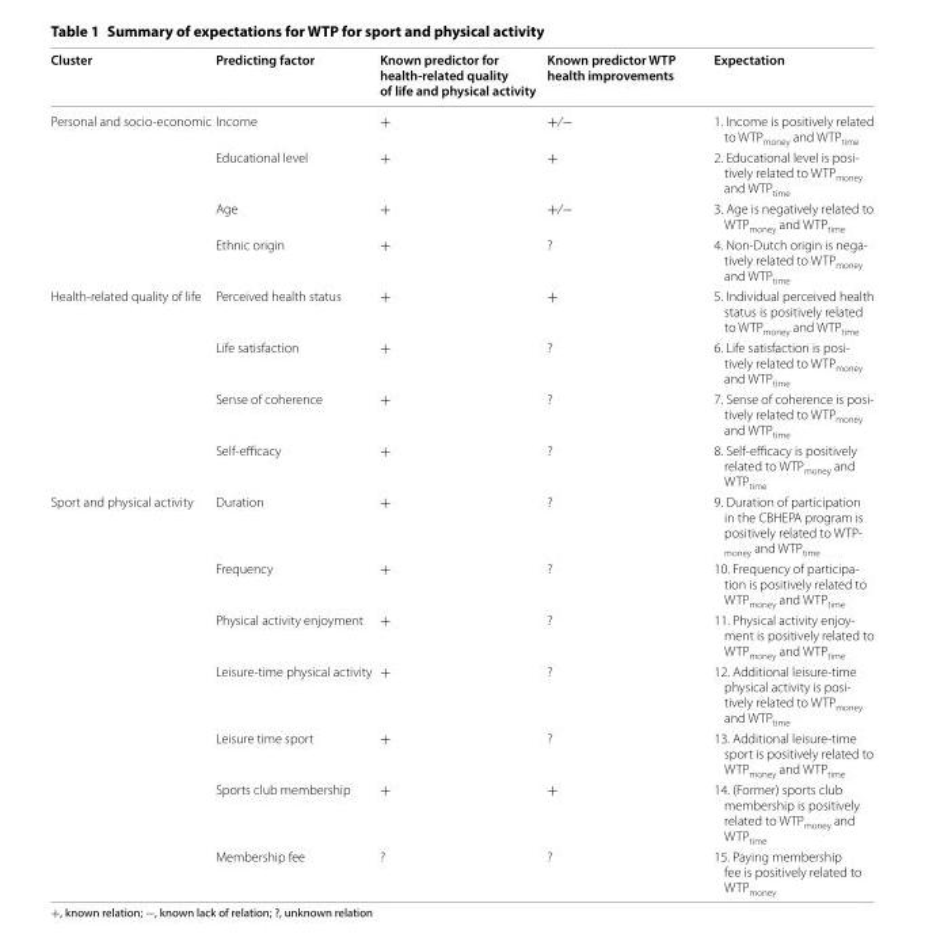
<table><thead><tr><td>Cluster</td><td>Predicting factor</td><td>Known predictor for health-related quality of life and physical activity</td><td>Known predictor WTP health improvements</td><td>Expectation</td></tr></thead><tbody><tr><td rowspan="4">Personal and socio-economic</td><td>Income</td><td>+</td><td>+/−</td><td>1. Income is positively related to WTP<sub>money</sub> and WTP<sub>time</sub></td></tr><tr><td>Educational level</td><td>+</td><td>+</td><td>2. Educational level is posi- tively related to WTPmoney and WTPtime</td></tr><tr><td>Age</td><td>+</td><td>+/−</td><td>3. Age is negatively related to WTP<sub>money</sub> and WTP<sub>time</sub></td></tr><tr><td>Ethnic origin</td><td>+</td><td>?</td><td>4. Non-Dutch origin is nega- tively related to WTPmoney and WTPtime</td></tr><tr><td rowspan="4">Health-related quality of life</td><td>Perceived health status</td><td>+</td><td>+</td><td>5. Individual perceived health status is positively related to WTP<sub>money</sub> and WTP<sub>time</sub></td></tr><tr><td>Life satisfaction</td><td>+</td><td>?</td><td>6. Life satisfaction is posi- tively related to WTPmoney and WTPtime</td></tr><tr><td>Sense of coherence</td><td>+</td><td>?</td><td>7. Sense of coherence is posi- tively related to WTPmoney and WTPtime</td></tr><tr><td>Self-efficacy</td><td>+</td><td>?</td><td>8. Self-efficacy is positively related to WTP<sub>money</sub> and WTP<sub>time</sub></td></tr><tr><td rowspan="7">Sport and physical activity</td><td>Duration</td><td>+</td><td>?</td><td>9. Duration of participation in the CBHEPA program is positively related to WTP- money and WTPtime</td></tr><tr><td>Frequency</td><td>+</td><td>?</td><td>10. Frequency of participa- tion is positively related to WTPmoney and WTPtime</td></tr><tr><td>Physical activity enjoyment</td><td>+</td><td>?</td><td>11. Physical activity enjoy- ment is positively related to WTPmoney and WTPtime</td></tr><tr><td>Leisure-time physical activity</td><td>+</td><td>?</td><td>12. Additional leisure-time physical activity is posi- tively related to WTPmoney and WTPtime</td></tr><tr><td>Leisure time sport</td><td>+</td><td>?</td><td>13. Additional leisure-time sport is positively related to WTP<sub>money</sub> and WTP<sub>time</sub></td></tr><tr><td>Sports club membership</td><td>+</td><td>+</td><td>14. (Former) sports club membership is positively related to WTP<sub>money</sub> and WTP<sub>time</sub></td></tr><tr><td>Membership fee</td><td>?</td><td>?</td><td>15. Paying membership fee is positively related to WTP<sub>money</sub></td></tr></tbody></table>